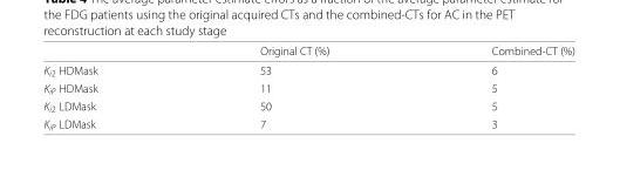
<table><thead><tr><td></td><td>Original CT (%)</td><td>Combined-CT (%)</td></tr></thead><tbody><tr><td>K<sub>i2</sub> HDMask</td><td>53</td><td>6</td></tr><tr><td>K<sub>iP</sub> HDMask</td><td>11</td><td>5</td></tr><tr><td>K<sub>i2</sub> LDMask</td><td>50</td><td>5</td></tr><tr><td>K<sub>iP</sub> LDMask</td><td>7</td><td>3</td></tr></tbody></table>